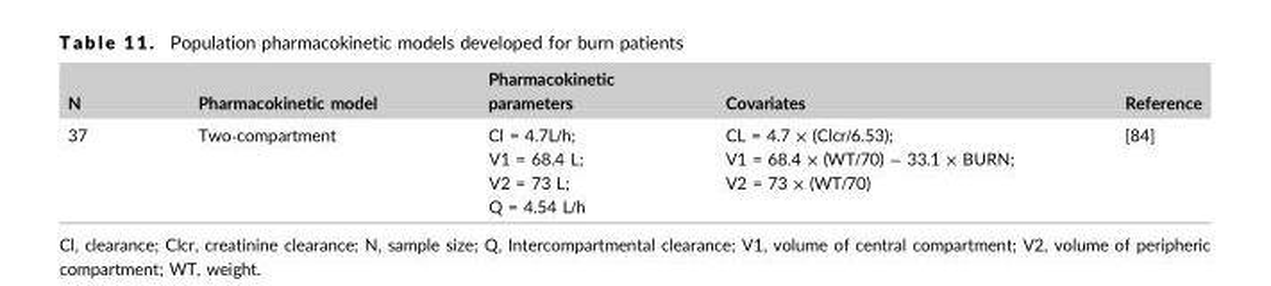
<table><thead><tr><td>N</td><td>Pharmacokinetic model</td><td>Pharmacokinetic parameters</td><td>Covariates</td><td>Reference</td></tr></thead><tbody><tr><td>37</td><td>Two‐compartment</td><td>Cl = 4.7L/h; V1 = 68.4 L; V2 = 73 L; Q = 4.54 L/h</td><td>CL = 4.7 × (Clcr/6.53); V1 = 68.4 × (WT/70) − 33.1 × BURN; V2 = 73 × (WT/70)</td><td>[84]</td></tr></tbody></table>